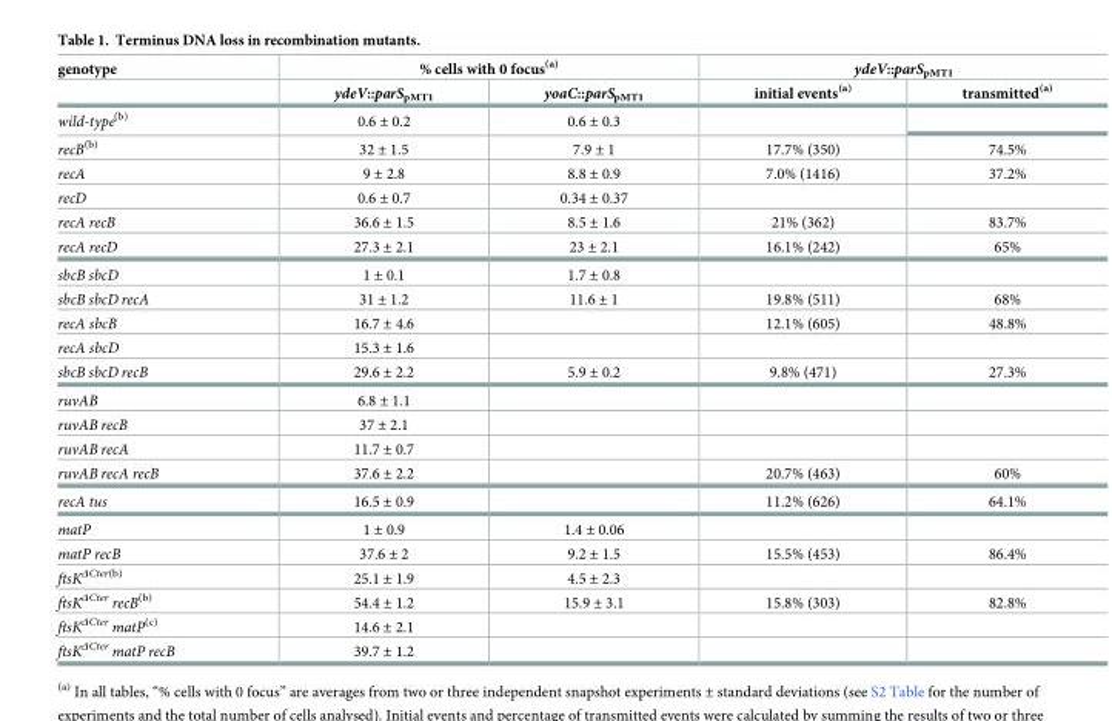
<table><thead><tr><td rowspan="2">genotype</td><td colspan="2">% cells with 0 focus<sup>(a)</sup></td><td colspan="2">ydeV::parS<sub>pMT1</sub></td></tr><tr><td>ydeV::parS<sub>pMT1</sub></td><td>yoaC::parS<sub>pMT1</sub></td><td>initial events<sup>(a)</sup></td><td>transmitted<sup>(a)</sup></td></tr></thead><tbody><tr><td>wild-type<sup>(b)</sup></td><td>0.6 ± 0.2</td><td>0.6 ± 0.3</td><td></td><td></td></tr><tr><td>recB<sup>(b)</sup></td><td>32 ± 1.5</td><td>7.9 ± 1</td><td>17.7% (350)</td><td>74.5%</td></tr><tr><td>recA</td><td>9 ± 2.8</td><td>8.8 ± 0.9</td><td>7.0% (1416)</td><td>37.2%</td></tr><tr><td>recD</td><td>0.6 ± 0.7</td><td>0.34 ± 0.37</td><td></td><td></td></tr><tr><td>recA recB</td><td>36.6 ± 1.5</td><td>8.5 ± 1.6</td><td>21% (362)</td><td>83.7%</td></tr><tr><td>recA recD</td><td>27.3 ± 2.1</td><td>23 ± 2.1</td><td>16.1% (242)</td><td>65%</td></tr><tr><td>sbcB sbcD</td><td>1 ± 0.1</td><td>1.7 ± 0.8</td><td></td><td></td></tr><tr><td>sbcB sbcD recA</td><td>31 ± 1.2</td><td>11.6 ± 1</td><td>19.8% (511)</td><td>68%</td></tr><tr><td>recA sbcB</td><td>16.7 ± 4.6</td><td></td><td>12.1% (605)</td><td>48.8%</td></tr><tr><td>recA sbcD</td><td>15.3 ± 1.6</td><td></td><td></td><td></td></tr><tr><td>sbcB sbcD recB</td><td>29.6 ± 2.2</td><td>5.9 ± 0.2</td><td>9.8% (471)</td><td>27.3%</td></tr><tr><td>ruvAB</td><td>6.8 ± 1.1</td><td></td><td></td><td></td></tr><tr><td>ruvAB recB</td><td>37 ± 2.1</td><td></td><td></td><td></td></tr><tr><td>ruvAB recA</td><td>11.7 ± 0.7</td><td></td><td></td><td></td></tr><tr><td>ruvAB recA recB</td><td>37.6 ± 2.2</td><td></td><td>20.7% (463)</td><td>60%</td></tr><tr><td>recA tus</td><td>16.5 ± 0.9</td><td></td><td>11.2% (626)</td><td>64.1%</td></tr><tr><td>matP</td><td>1 ± 0.9</td><td>1.4 ± 0.06</td><td></td><td></td></tr><tr><td>matP recB</td><td>37.6 ± 2</td><td>9.2 ± 1.5</td><td>15.5% (453)</td><td>86.4%</td></tr><tr><td>ftsK<sup>ΔCter(b)</sup></td><td>25.1 ± 1.9</td><td>4.5 ± 2.3</td><td></td><td></td></tr><tr><td>ftsK<sup>ΔCter</sup> recB<sup>(b)</sup></td><td>54.4 ± 1.2</td><td>15.9 ± 3.1</td><td>15.8% (303)</td><td>82.8%</td></tr><tr><td>ftsK<sup>ΔCter</sup> matP<sup>(c)</sup></td><td>14.6 ± 2.1</td><td></td><td></td><td></td></tr><tr><td>ftsK<sup>ΔCter</sup> matP recB</td><td>39.7 ± 1.2</td><td></td><td></td><td></td></tr></tbody></table>